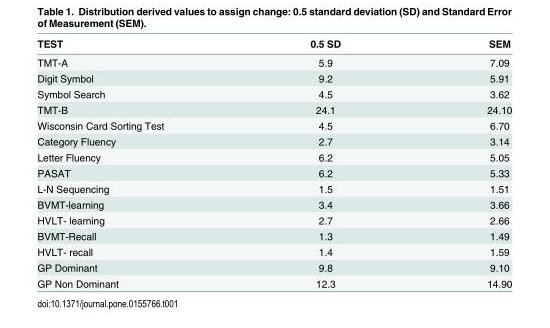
<table><thead><tr><td>TEST</td><td>0.5 SD</td><td>SEM</td></tr></thead><tbody><tr><td>TMT-A</td><td>5.9</td><td>7.09</td></tr><tr><td>Digit Symbol</td><td>9.2</td><td>5.91</td></tr><tr><td>Symbol Search</td><td>4.5</td><td>3.62</td></tr><tr><td>TMT-B</td><td>24.1</td><td>24.10</td></tr><tr><td>Wisconsin Card Sorting Test</td><td>4.5</td><td>6.70</td></tr><tr><td>Category Fluency</td><td>2.7</td><td>3.14</td></tr><tr><td>Letter Fluency</td><td>6.2</td><td>5.05</td></tr><tr><td>PASAT</td><td>6.2</td><td>5.33</td></tr><tr><td>L-N Sequencing</td><td>1.5</td><td>1.51</td></tr><tr><td>BVMT-learning</td><td>3.4</td><td>3.66</td></tr><tr><td>HVLT- learning</td><td>2.7</td><td>2.66</td></tr><tr><td>BVMT-Recall</td><td>1.3</td><td>1.49</td></tr><tr><td>HVLT- recall</td><td>1.4</td><td>1.59</td></tr><tr><td>GP Dominant</td><td>9.8</td><td>9.10</td></tr><tr><td>GP Non Dominant</td><td>12.3</td><td>14.90</td></tr></tbody></table>